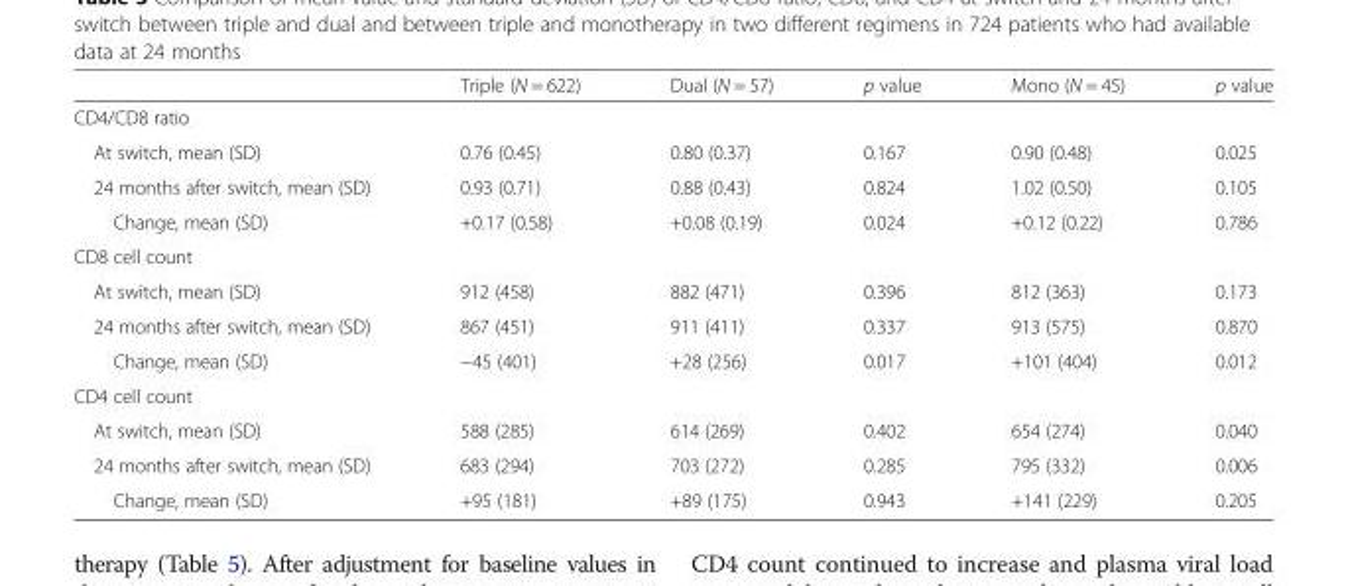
<table><thead><tr><td></td><td>Triple (N = 622)</td><td>Dual (N = 57)</td><td>p value</td><td>Mono (N = 45)</td><td>p value</td></tr></thead><tbody><tr><td colspan="6">CD4/CD8 ratio</td></tr><tr><td>At switch, mean (SD)</td><td>0.76 (0.45)</td><td>0.80 (0.37)</td><td>0.167</td><td>0.90 (0.48)</td><td>0.025</td></tr><tr><td>24 months after switch, mean (SD)</td><td>0.93 (0.71)</td><td>0.88 (0.43)</td><td>0.824</td><td>1.02 (0.50)</td><td>0.105</td></tr><tr><td>Change, mean (SD)</td><td>+0.17 (0.58)</td><td>+0.08 (0.19)</td><td>0.024</td><td>+0.12 (0.22)</td><td>0.786</td></tr><tr><td colspan="6">CD8 cell count</td></tr><tr><td>At switch, mean (SD)</td><td>912 (458)</td><td>882 (471)</td><td>0.396</td><td>812 (363)</td><td>0.173</td></tr><tr><td>24 months after switch, mean (SD)</td><td>867 (451)</td><td>911 (411)</td><td>0.337</td><td>913 (575)</td><td>0.870</td></tr><tr><td>Change, mean (SD)</td><td>−45 (401)</td><td>+28 (256)</td><td>0.017</td><td>+101 (404)</td><td>0.012</td></tr><tr><td colspan="6">CD4 cell count</td></tr><tr><td>At switch, mean (SD)</td><td>588 (285)</td><td>614 (269)</td><td>0.402</td><td>654 (274)</td><td>0.040</td></tr><tr><td>24 months after switch, mean (SD)</td><td>683 (294)</td><td>703 (272)</td><td>0.285</td><td>795 (332)</td><td>0.006</td></tr><tr><td>Change, mean (SD)</td><td>+95 (181)</td><td>+89 (175)</td><td>0.943</td><td>+141 (229)</td><td>0.205</td></tr></tbody></table>